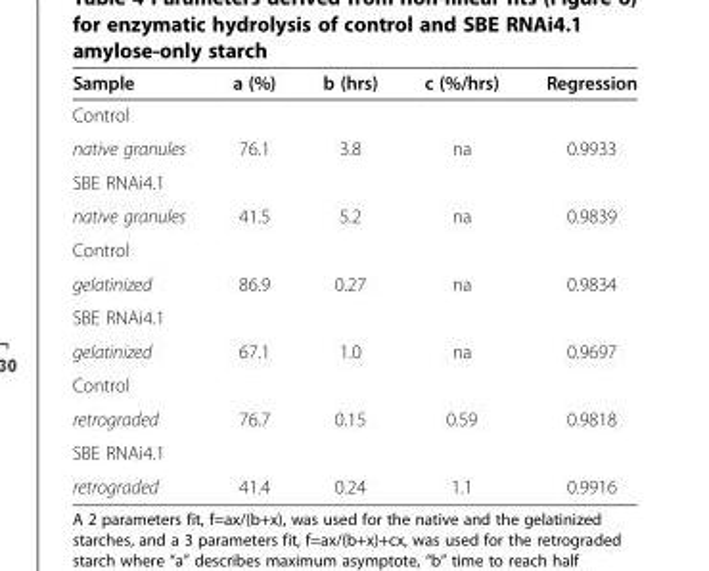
<table><thead><tr><td>Sample</td><td>a (%)</td><td>b (hrs)</td><td>c (%/hrs)</td><td>Regression</td></tr></thead><tbody><tr><td colspan="5">Control</td></tr><tr><td>native granules</td><td>76.1</td><td>3.8</td><td>na</td><td>0.9933</td></tr><tr><td colspan="5">SBE RNAi4.1</td></tr><tr><td>native granules</td><td>41.5</td><td>5.2</td><td>na</td><td>0.9839</td></tr><tr><td colspan="5">Control</td></tr><tr><td>gelatinized</td><td>86.9</td><td>0.27</td><td>na</td><td>0.9834</td></tr><tr><td colspan="5">SBE RNAi4.1</td></tr><tr><td>gelatinized</td><td>67.1</td><td>1.0</td><td>na</td><td>0.9697</td></tr><tr><td colspan="5">Control</td></tr><tr><td>retrograded</td><td>76.7</td><td>0.15</td><td>0.59</td><td>0.9818</td></tr><tr><td colspan="5">SBE RNAi4.1</td></tr><tr><td>retrograded</td><td>41.4</td><td>0.24</td><td>1.1</td><td>0.9916</td></tr></tbody></table>